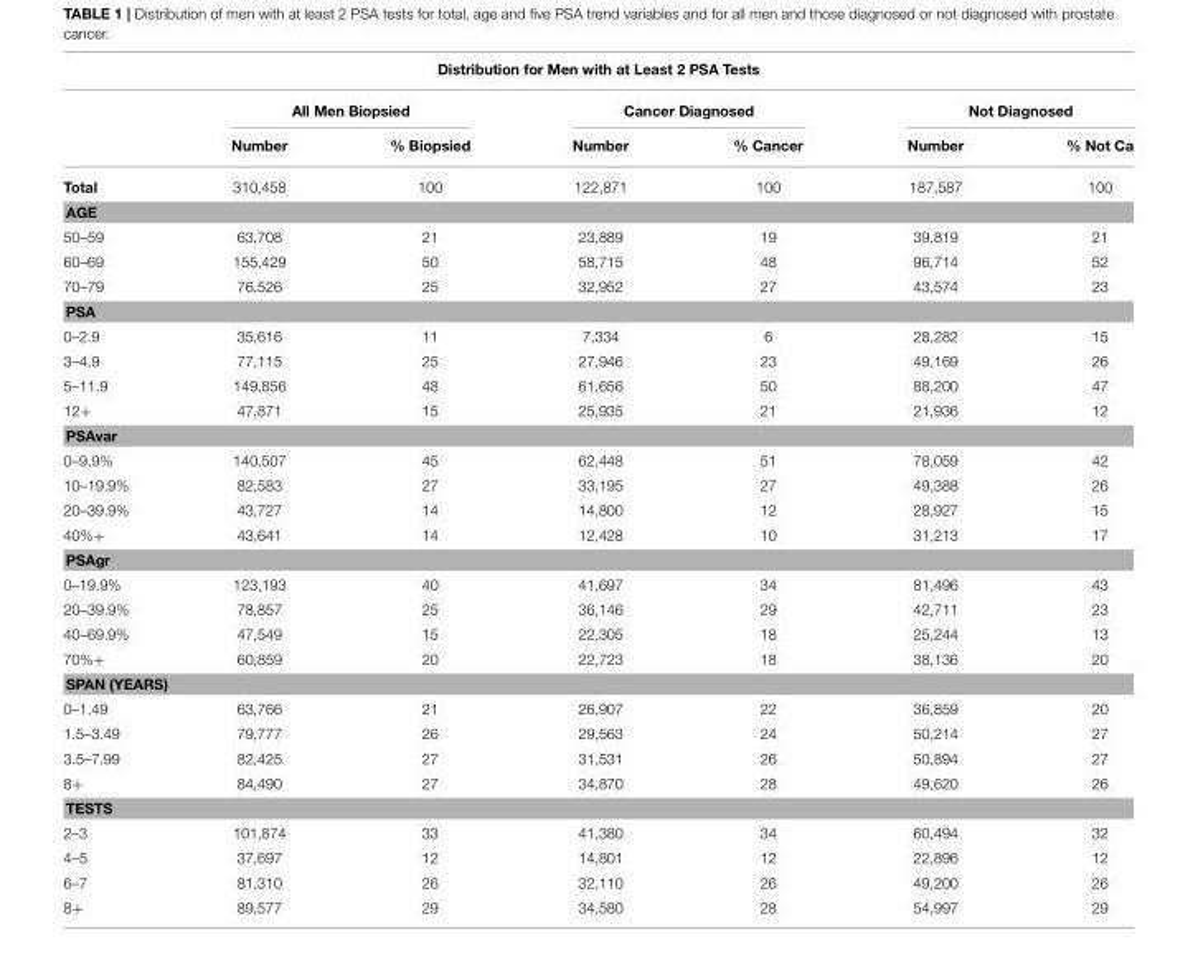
<table><thead><tr><td colspan="7">Distribution for Men with at Least 2 PSA Tests</td></tr><tr><td rowspan="2"></td><td colspan="2">All Men Biopsied</td><td colspan="2">Cancer Diagnosed</td><td colspan="2">Not Diagnosed</td></tr><tr><td>Number</td><td>% Biopsied</td><td>Number</td><td>% Cancer</td><td>Number</td><td>% Not Ca</td></tr></thead><tbody><tr><td>Total</td><td>310,458</td><td>100</td><td>122,871</td><td>100</td><td>187,587</td><td>100</td></tr><tr><td colspan="7">AGE</td></tr><tr><td>50–59</td><td>63,708</td><td>21</td><td>23,889</td><td>19</td><td>39,819</td><td>21</td></tr><tr><td>60–69</td><td>155,429</td><td>50</td><td>58,715</td><td>48</td><td>96,714</td><td>52</td></tr><tr><td>70–79</td><td>76,526</td><td>25</td><td>32,952</td><td>27</td><td>43,574</td><td>23</td></tr><tr><td colspan="7">PSA</td></tr><tr><td>0–2.9</td><td>35,616</td><td>11</td><td>7,334</td><td>6</td><td>28,282</td><td>15</td></tr><tr><td>3–4.9</td><td>77,115</td><td>25</td><td>27,946</td><td>23</td><td>49,169</td><td>26</td></tr><tr><td>5–11.9</td><td>149,856</td><td>48</td><td>61,656</td><td>50</td><td>88,200</td><td>47</td></tr><tr><td>12+</td><td>47,871</td><td>15</td><td>25,935</td><td>21</td><td>21,936</td><td>12</td></tr><tr><td colspan="7">PSAvar</td></tr><tr><td>0–9.9%</td><td>140,507</td><td>45</td><td>62,448</td><td>51</td><td>78,059</td><td>42</td></tr><tr><td>10–19.9%</td><td>82,583</td><td>27</td><td>33,195</td><td>27</td><td>49,388</td><td>26</td></tr><tr><td>20–39.9%</td><td>43,727</td><td>14</td><td>14,800</td><td>12</td><td>28,927</td><td>15</td></tr><tr><td>40%+</td><td>43,641</td><td>14</td><td>12,428</td><td>10</td><td>31,213</td><td>17</td></tr><tr><td colspan="7">PSAgr</td></tr><tr><td>0–19.9%</td><td>123,193</td><td>40</td><td>41,697</td><td>34</td><td>81,496</td><td>43</td></tr><tr><td>20–39.9%</td><td>78,857</td><td>25</td><td>36,146</td><td>29</td><td>42,711</td><td>23</td></tr><tr><td>40–69.9%</td><td>47,549</td><td>15</td><td>22,305</td><td>18</td><td>25,244</td><td>13</td></tr><tr><td>70%+</td><td>60,859</td><td>20</td><td>22,723</td><td>18</td><td>38,136</td><td>20</td></tr><tr><td colspan="7">SPAN (YEARS)</td></tr><tr><td>0–1.49</td><td>63,766</td><td>21</td><td>26,907</td><td>22</td><td>36,859</td><td>20</td></tr><tr><td>1.5–3.49</td><td>79,777</td><td>26</td><td>29,563</td><td>24</td><td>50,214</td><td>27</td></tr><tr><td>3.5–7.99</td><td>82,425</td><td>27</td><td>31,531</td><td>26</td><td>50,894</td><td>27</td></tr><tr><td>8+</td><td>84,490</td><td>27</td><td>34,870</td><td>28</td><td>49,620</td><td>26</td></tr><tr><td colspan="7">TESTS</td></tr><tr><td>2–3</td><td>101,874</td><td>33</td><td>41,380</td><td>34</td><td>60,494</td><td>32</td></tr><tr><td>4–5</td><td>37,697</td><td>12</td><td>14,801</td><td>12</td><td>22,896</td><td>12</td></tr><tr><td>6–7</td><td>81,310</td><td>26</td><td>32,110</td><td>26</td><td>49,200</td><td>26</td></tr><tr><td>8+</td><td>89,577</td><td>29</td><td>34,580</td><td>28</td><td>54,997</td><td>29</td></tr></tbody></table>